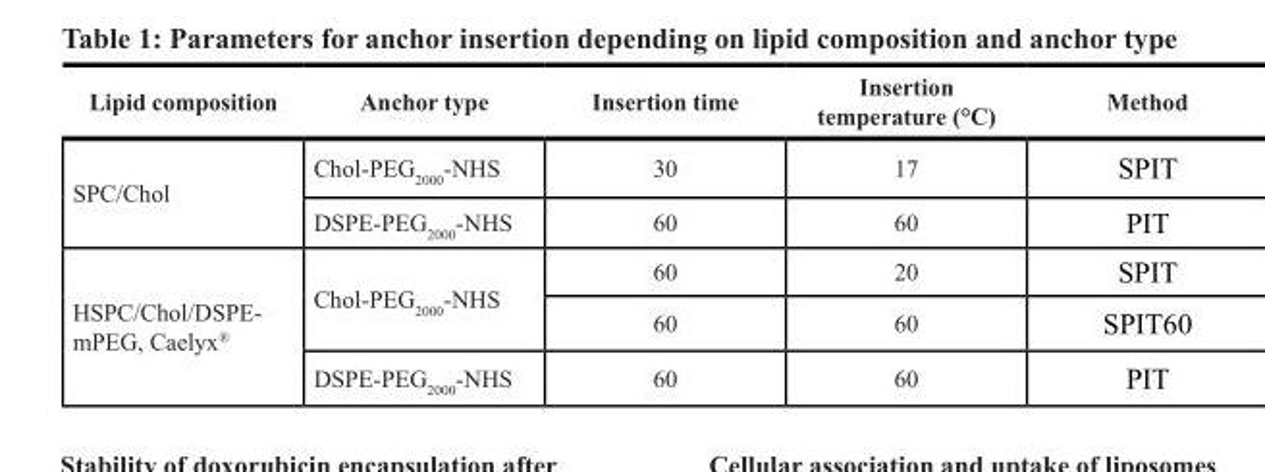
<table><thead><tr><td>Lipid composition</td><td>Anchor type</td><td>Insertion time</td><td>Insertion temperature (°C)</td><td>Method</td></tr></thead><tbody><tr><td rowspan="2">SPC/Chol</td><td>Chol-PEG<sub>2000</sub>-NHS</td><td>30</td><td>17</td><td>SPIT</td></tr><tr><td>DSPE-PEG<sub>2000</sub>-NHS</td><td>60</td><td>60</td><td>PIT</td></tr><tr><td rowspan="3">HSPC/Chol/DSPE- mPEG, Caelyx<sup>®</sup></td><td rowspan="2">Chol-PEG<sub>2000</sub>-NHS</td><td>60</td><td>20</td><td>SPIT</td></tr><tr><td>60</td><td>60</td><td>SPIT60</td></tr><tr><td>DSPE-PEG<sub>2000</sub>-NHS</td><td>60</td><td>60</td><td>PIT</td></tr></tbody></table>